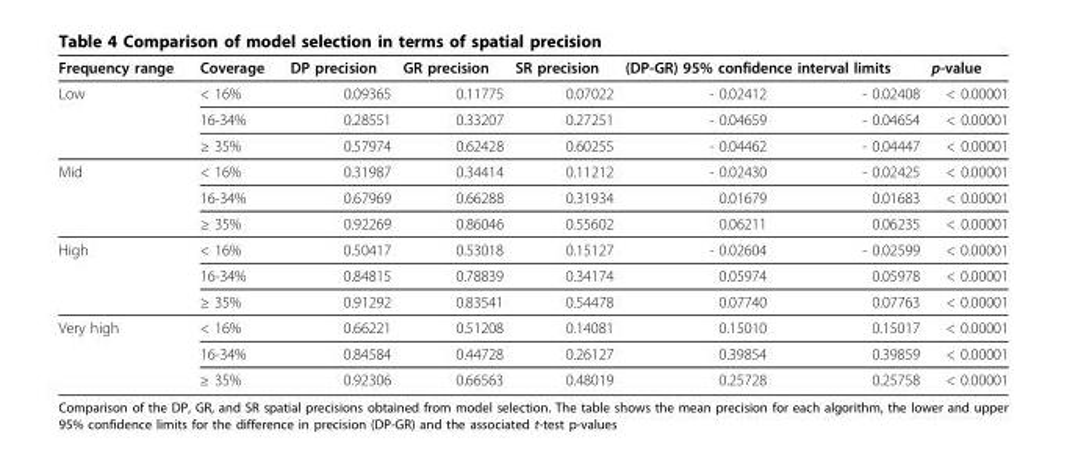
<table><thead><tr><td rowspan="2">Frequency range Low</td><td rowspan="2">Coverage &lt; 16%</td><td rowspan="2">DP precision 0.09365</td><td rowspan="2">GR precision 0.11775</td><td rowspan="2">SR precision 0.07022</td><td colspan="2">(DP-GR) 95% confidence interval limits</td><td rowspan="2">p-value &lt; 0.00001</td></tr><tr><td>- 0.02412</td><td>- 0.02408</td></tr></thead><tbody><tr><td></td><td>16-34%</td><td>0.28551</td><td>0.33207</td><td>0.27251</td><td>- 0.04659</td><td>- 0.04654</td><td>&lt; 0.00001</td></tr><tr><td></td><td>≥ 35%</td><td>0.57974</td><td>0.62428</td><td>0.60255</td><td>- 0.04462</td><td>- 0.04447</td><td>&lt; 0.00001</td></tr><tr><td rowspan="3">Mid</td><td>&lt; 16%</td><td>0.31987</td><td>0.34414</td><td>0.11212</td><td>- 0.02430</td><td>- 0.02425</td><td>&lt; 0.00001</td></tr><tr><td>16-34%</td><td>0.67969</td><td>0.66288</td><td>0.31934</td><td>0.01679</td><td>0.01683</td><td>&lt; 0.00001</td></tr><tr><td>≥ 35%</td><td>0.92269</td><td>0.86046</td><td>0.55602</td><td>0.06211</td><td>0.06235</td><td>&lt; 0.00001</td></tr><tr><td rowspan="3">High</td><td>&lt; 16%</td><td>0.50417</td><td>0.53018</td><td>0.15127</td><td>- 0.02604</td><td>- 0.02599</td><td>&lt; 0.00001</td></tr><tr><td>16-34%</td><td>0.84815</td><td>0.78839</td><td>0.34174</td><td>0.05974</td><td>0.05978</td><td>&lt; 0.00001</td></tr><tr><td>≥ 35%</td><td>0.91292</td><td>0.83541</td><td>0.54478</td><td>0.07740</td><td>0.07763</td><td>&lt; 0.00001</td></tr><tr><td rowspan="3">Very high</td><td>&lt; 16%</td><td>0.66221</td><td>0.51208</td><td>0.14081</td><td>0.15010</td><td>0.15017</td><td>&lt; 0.00001</td></tr><tr><td>16-34%</td><td>0.84584</td><td>0.44728</td><td>0.26127</td><td>0.39854</td><td>0.39859</td><td>&lt; 0.00001</td></tr><tr><td>≥ 35%</td><td>0.92306</td><td>0.66563</td><td>0.48019</td><td>0.25728</td><td>0.25758</td><td>&lt; 0.00001</td></tr></tbody></table>